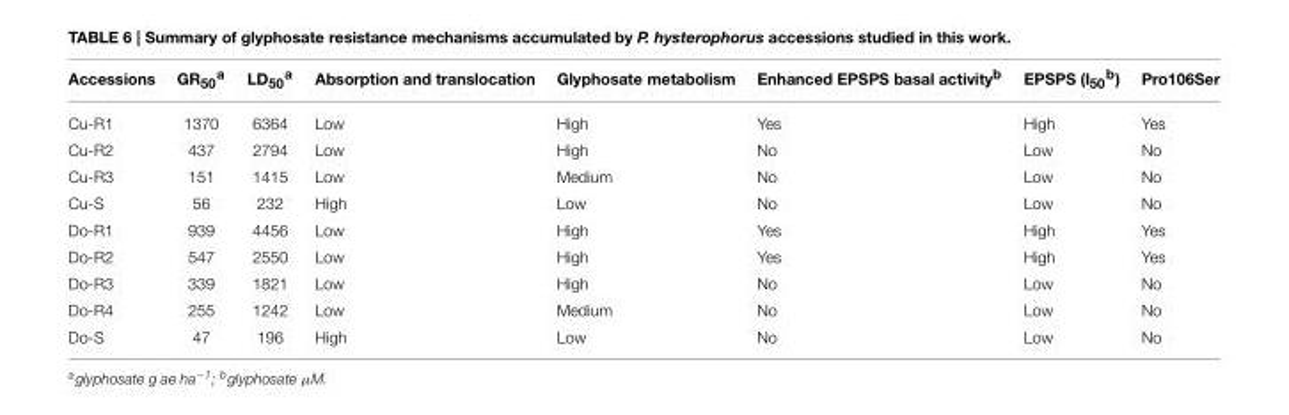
<table><thead><tr><td>Accessions</td><td>GR<sub>50</sub><sup>a</sup></td><td>LD<sub>50</sub><sup>a</sup></td><td>Absorption and translocation</td><td>Glyphosate metabolism</td><td>Enhanced EPSPS basal activity<sup>b</sup></td><td>EPSPS (I<sub>50</sub><sup>b</sup>)</td><td>Pro106Ser</td></tr></thead><tbody><tr><td>Cu-R1</td><td>1370</td><td>6364</td><td>Low</td><td>High</td><td>Yes</td><td>High</td><td>Yes</td></tr><tr><td>Cu-R2</td><td>437</td><td>2794</td><td>Low</td><td>High</td><td>No</td><td>Low</td><td>No</td></tr><tr><td>Cu-R3</td><td>151</td><td>1415</td><td>Low</td><td>Medium</td><td>No</td><td>Low</td><td>No</td></tr><tr><td>Cu-S</td><td>56</td><td>232</td><td>High</td><td>Low</td><td>No</td><td>Low</td><td>No</td></tr><tr><td>Do-R1</td><td>939</td><td>4456</td><td>Low</td><td>High</td><td>Yes</td><td>High</td><td>Yes</td></tr><tr><td>Do-R2</td><td>547</td><td>2550</td><td>Low</td><td>High</td><td>Yes</td><td>High</td><td>Yes</td></tr><tr><td>Do-R3</td><td>339</td><td>1821</td><td>Low</td><td>High</td><td>No</td><td>Low</td><td>No</td></tr><tr><td>Do-R4</td><td>255</td><td>1242</td><td>Low</td><td>Medium</td><td>No</td><td>Low</td><td>No</td></tr><tr><td>Do-S</td><td>47</td><td>196</td><td>High</td><td>Low</td><td>No</td><td>Low</td><td>No</td></tr></tbody></table>